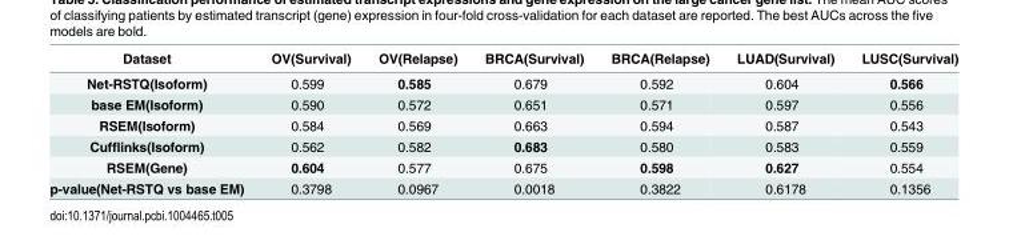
<table><thead><tr><td>Dataset</td><td>OV(Survival)</td><td>OV(Relapse)</td><td>BRCA(Survival)</td><td>BRCA(Relapse)</td><td>LUAD(Survival)</td><td>LUSC(Survival)</td></tr></thead><tbody><tr><td>Net-RSTQ(Isoform)</td><td>0.599</td><td>0.585</td><td>0.679</td><td>0.592</td><td>0.604</td><td>0.566</td></tr><tr><td>base EM(Isoform)</td><td>0.590</td><td>0.572</td><td>0.651</td><td>0.571</td><td>0.597</td><td>0.556</td></tr><tr><td>RSEM(Isoform)</td><td>0.584</td><td>0.569</td><td>0.663</td><td>0.594</td><td>0.587</td><td>0.543</td></tr><tr><td>Cufflinks(Isoform)</td><td>0.562</td><td>0.582</td><td>0.683</td><td>0.580</td><td>0.583</td><td>0.559</td></tr><tr><td>RSEM(Gene)</td><td>0.604</td><td>0.577</td><td>0.675</td><td>0.598</td><td>0.627</td><td>0.554</td></tr><tr><td>p-value(Net-RSTQ vs base EM)</td><td>0.3798</td><td>0.0967</td><td>0.0018</td><td>0.3822</td><td>0.6178</td><td>0.1356</td></tr></tbody></table>